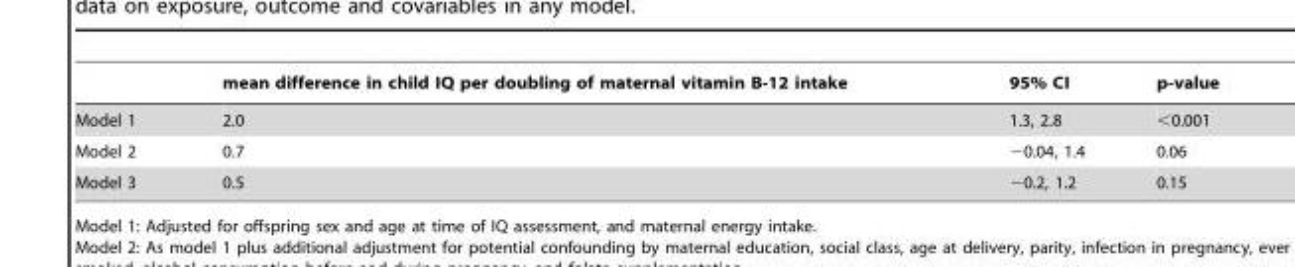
<table><thead><tr><td></td><td>mean difference in child IQ per doubling of maternal vitamin B-12 intake</td><td>95% CI</td><td>p-value</td></tr></thead><tbody><tr><td>Model 1</td><td>2.0</td><td>1.3, 2.8</td><td>&lt;0.001</td></tr><tr><td>Model 2</td><td>0.7</td><td>−0.04, 1.4</td><td>0.06</td></tr><tr><td>Model 3</td><td>0.5</td><td>−0.2, 1.2</td><td>0.15</td></tr></tbody></table>